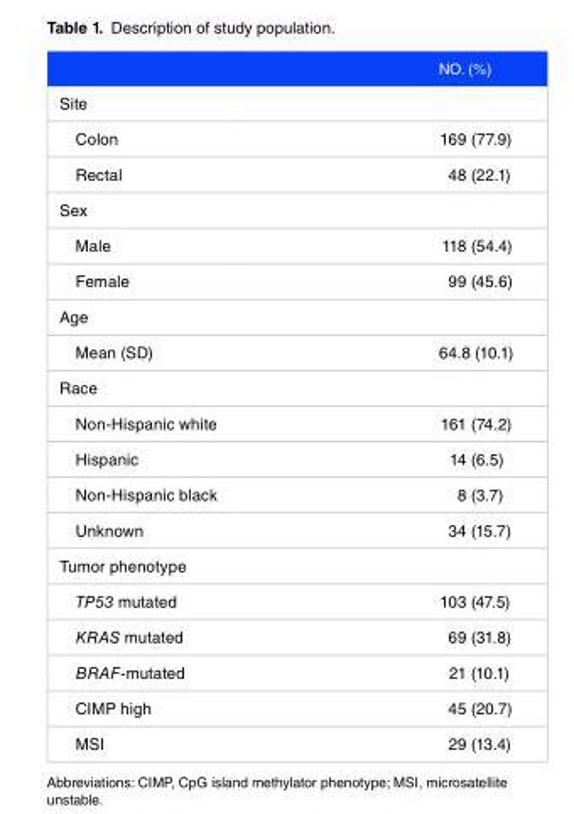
<table><thead><tr><td></td><td>NO. (%)</td></tr></thead><tbody><tr><td colspan="2">Site</td></tr><tr><td>Colon</td><td>169 (77.9)</td></tr><tr><td>Rectal</td><td>48 (22.1)</td></tr><tr><td colspan="2">Sex</td></tr><tr><td>Male</td><td>118 (54.4)</td></tr><tr><td>Female</td><td>99 (45.6)</td></tr><tr><td colspan="2">Age</td></tr><tr><td>Mean (SD)</td><td>64.8 (10.1)</td></tr><tr><td colspan="2">Race</td></tr><tr><td>Non-Hispanic white</td><td>161 (74.2)</td></tr><tr><td>Hispanic</td><td>14 (6.5)</td></tr><tr><td>Non-Hispanic black</td><td>8 (3.7)</td></tr><tr><td>Unknown</td><td>34 (15.7)</td></tr><tr><td colspan="2">Tumor phenotype</td></tr><tr><td>TP53 mutated</td><td>103 (47.5)</td></tr><tr><td>KRAS mutated</td><td>69 (31.8)</td></tr><tr><td>BRAF-mutated</td><td>21 (10.1)</td></tr><tr><td>CIMP high</td><td>45 (20.7)</td></tr><tr><td>MSI</td><td>29 (13.4)</td></tr></tbody></table>